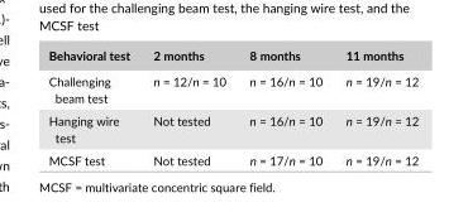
<table><thead><tr><td>Behavioral test</td><td>2 months</td><td>8 months</td><td>11 months</td></tr></thead><tbody><tr><td>Challenging beam test</td><td>n = 12/n = 10</td><td>n = 16/n = 10</td><td>n = 19/n = 12</td></tr><tr><td>Hanging wire test</td><td>Not tested</td><td>n = 16/n = 10</td><td>n = 19/n = 12</td></tr><tr><td>MCSF test</td><td>Not tested</td><td>n = 17/n = 10</td><td>n = 19/n = 12</td></tr></tbody></table>